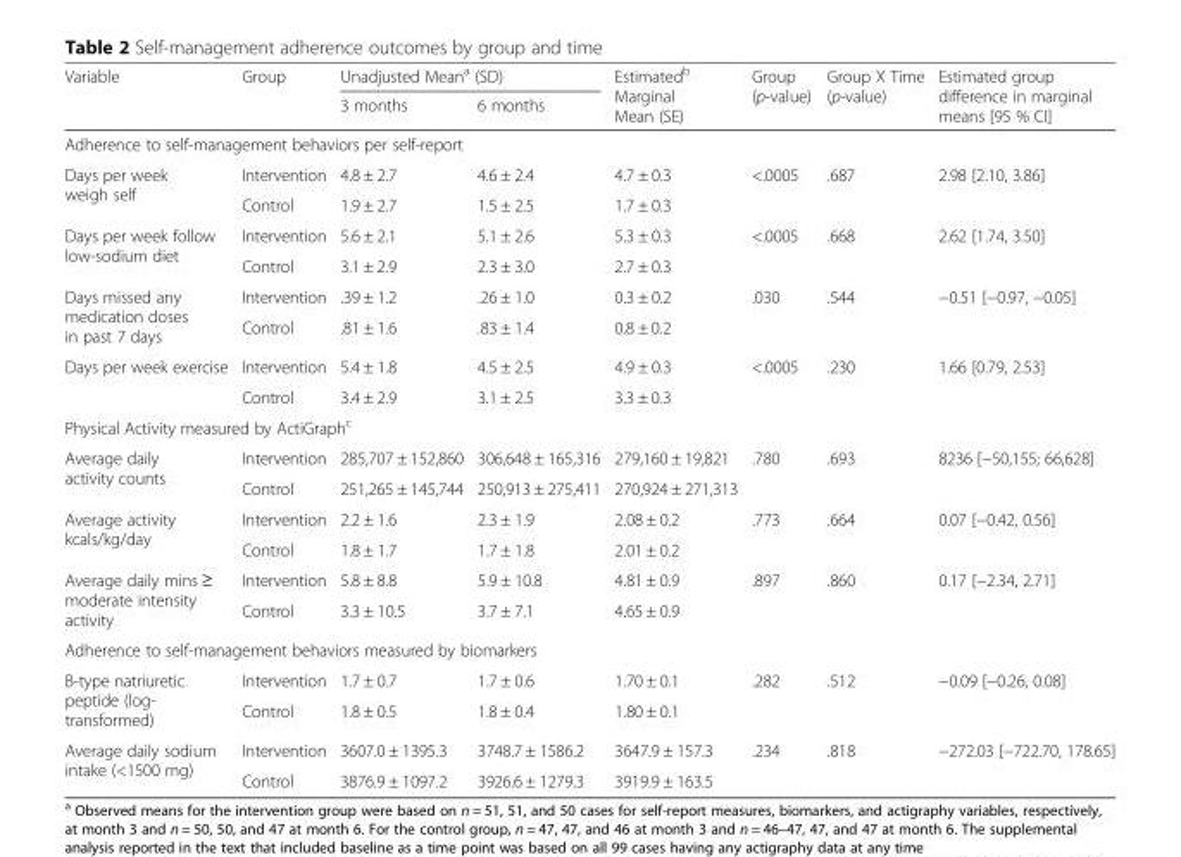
<table><thead><tr><td rowspan="2">Variable</td><td rowspan="2">Group</td><td colspan="2">Unadjusted Mean<sup>a</sup> (SD)</td><td rowspan="2">Estimated<sup>b</sup> Marginal Mean (SE)</td><td rowspan="2">Group (p-value)</td><td rowspan="2">Group X Time (p-value)</td><td rowspan="2">Estimated group difference in marginal means [95 % CI]</td></tr><tr><td>3 months</td><td>6 months</td></tr></thead><tbody><tr><td colspan="8">Adherence to self-management behaviors per self-report</td></tr><tr><td rowspan="2">Days per week weigh self</td><td>Intervention</td><td>4.8 ± 2.7</td><td>4.6 ± 2.4</td><td>4.7 ± 0.3</td><td>&lt;.0005</td><td>.687</td><td>2.98 [2.10, 3.86]</td></tr><tr><td>Control</td><td>1.9 ± 2.7</td><td>1.5 ± 2.5</td><td>1.7 ± 0.3</td><td></td><td></td><td></td></tr><tr><td rowspan="2">Days per week follow low-sodium diet</td><td>Intervention</td><td>5.6 ± 2.1</td><td>5.1 ± 2.6</td><td>5.3 ± 0.3</td><td>&lt;.0005</td><td>.668</td><td>2.62 [1.74, 3.50]</td></tr><tr><td>Control</td><td>3.1 ± 2.9</td><td>2.3 ± 3.0</td><td>2.7 ± 0.3</td><td></td><td></td><td></td></tr><tr><td rowspan="2">Days missed any medication doses in past 7 days</td><td>Intervention</td><td>.39 ± 1.2</td><td>.26 ± 1.0</td><td>0.3 ± 0.2</td><td>.030</td><td>.544</td><td>−0.51 [−0.97, −0.05]</td></tr><tr><td>Control</td><td>.81 ± 1.6</td><td>.83 ± 1.4</td><td>0.8 ± 0.2</td><td></td><td></td><td></td></tr><tr><td rowspan="2">Days per week exercise</td><td>Intervention</td><td>5.4 ± 1.8</td><td>4.5 ± 2.5</td><td>4.9 ± 0.3</td><td>&lt;.0005</td><td>.230</td><td>1.66 [0.79, 2.53]</td></tr><tr><td>Control</td><td>3.4 ± 2.9</td><td>3.1 ± 2.5</td><td>3.3 ± 0.3</td><td></td><td></td><td></td></tr><tr><td colspan="8">Physical Activity measured by ActiGraph<sup>c</sup></td></tr><tr><td rowspan="2">Average daily activity counts</td><td>Intervention</td><td>285,707 ± 152,860</td><td>306,648 ± 165,316</td><td>279,160 ± 19,821</td><td>.780</td><td>.693</td><td>8236 [−50,155; 66,628]</td></tr><tr><td>Control</td><td>251,265 ± 145,744</td><td>250,913 ± 275,411</td><td>270,924 ± 271,313</td><td></td><td></td><td></td></tr><tr><td rowspan="2">Average activity kcals/kg/day</td><td>Intervention</td><td>2.2 ± 1.6</td><td>2.3 ± 1.9</td><td>2.08 ± 0.2</td><td>.773</td><td>.664</td><td>0.07 [−0.42, 0.56]</td></tr><tr><td>Control</td><td>1.8 ± 1.7</td><td>1.7 ± 1.8</td><td>2.01 ± 0.2</td><td></td><td></td><td></td></tr><tr><td rowspan="2">Average daily mins ≥ moderate intensity activity</td><td>Intervention</td><td>5.8 ± 8.8</td><td>5.9 ± 10.8</td><td>4.81 ± 0.9</td><td>.897</td><td>.860</td><td>0.17 [−2.34, 2.71]</td></tr><tr><td>Control</td><td>3.3 ± 10.5</td><td>3.7 ± 7.1</td><td>4.65 ± 0.9</td><td></td><td></td><td></td></tr><tr><td colspan="8">Adherence to self-management behaviors measured by biomarkers</td></tr><tr><td rowspan="2">B-type natriuretic peptide (log- transformed)</td><td>Intervention</td><td>1.7 ± 0.7</td><td>1.7 ± 0.6</td><td>1.70 ± 0.1</td><td>.282</td><td>.512</td><td>−0.09 [−0.26, 0.08]</td></tr><tr><td>Control</td><td>1.8 ± 0.5</td><td>1.8 ± 0.4</td><td>1.80 ± 0.1</td><td></td><td></td><td></td></tr><tr><td rowspan="2">Average daily sodium intake (&lt;1500 mg)</td><td>Intervention</td><td>3607.0 ± 1395.3</td><td>3748.7 ± 1586.2</td><td>3647.9 ± 157.3</td><td>.234</td><td>.818</td><td>−272.03 [−722.70, 178.65]</td></tr><tr><td>Control</td><td>3876.9 ± 1097.2</td><td>3926.6 ± 1279.3</td><td>3919.9 ± 163.5</td><td></td><td></td><td></td></tr></tbody></table>